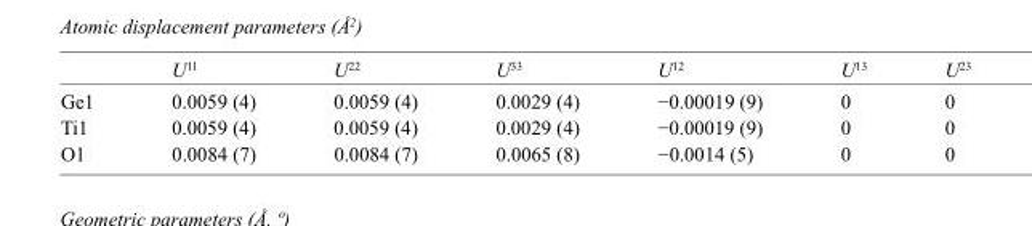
<table><thead><tr><td></td><td>U<sup>11</sup></td><td>U<sup>22</sup></td><td>U<sup>33</sup></td><td>U<sup>12</sup></td><td>U<sup>13</sup></td><td>U<sup>23</sup></td></tr></thead><tbody><tr><td>Ge1</td><td>0.0059 (4)</td><td>0.0059 (4)</td><td>0.0029 (4)</td><td>−0.00019 (9)</td><td>0</td><td>0</td></tr><tr><td>Ti1</td><td>0.0059 (4)</td><td>0.0059 (4)</td><td>0.0029 (4)</td><td>−0.00019 (9)</td><td>0</td><td>0</td></tr><tr><td>O1</td><td>0.0084 (7)</td><td>0.0084 (7)</td><td>0.0065 (8)</td><td>−0.0014 (5)</td><td>0</td><td>0</td></tr></tbody></table>